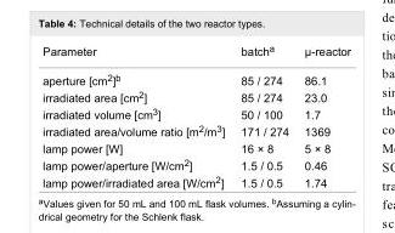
<table><tbody><tr><td>Parameter</td><td>batch<sup>a</sup></td><td>μ-reactor</td></tr><tr><td>aperture [cm<sup>2</sup>]<sup>b</sup></td><td>85 / 274</td><td>86.1</td></tr><tr><td>irradiated area [cm<sup>2</sup>]</td><td>85 / 274</td><td>23.0</td></tr><tr><td>irradiated volume [cm<sup>3</sup>]</td><td>50 / 100</td><td>1.7</td></tr><tr><td>irradiated area/volume ratio [m<sup>2</sup>/m<sup>3</sup>]</td><td>171 / 274</td><td>1369</td></tr><tr><td>lamp power [W]</td><td>16 × 8</td><td>5 × 8</td></tr><tr><td>lamp power/aperture [W/cm<sup>2</sup>]</td><td>1.5 / 0.5</td><td>0.46</td></tr><tr><td>lamp power/irradiated area [W/cm<sup>2</sup>]</td><td>1.5 / 0.5</td><td>1.74</td></tr></tbody></table>